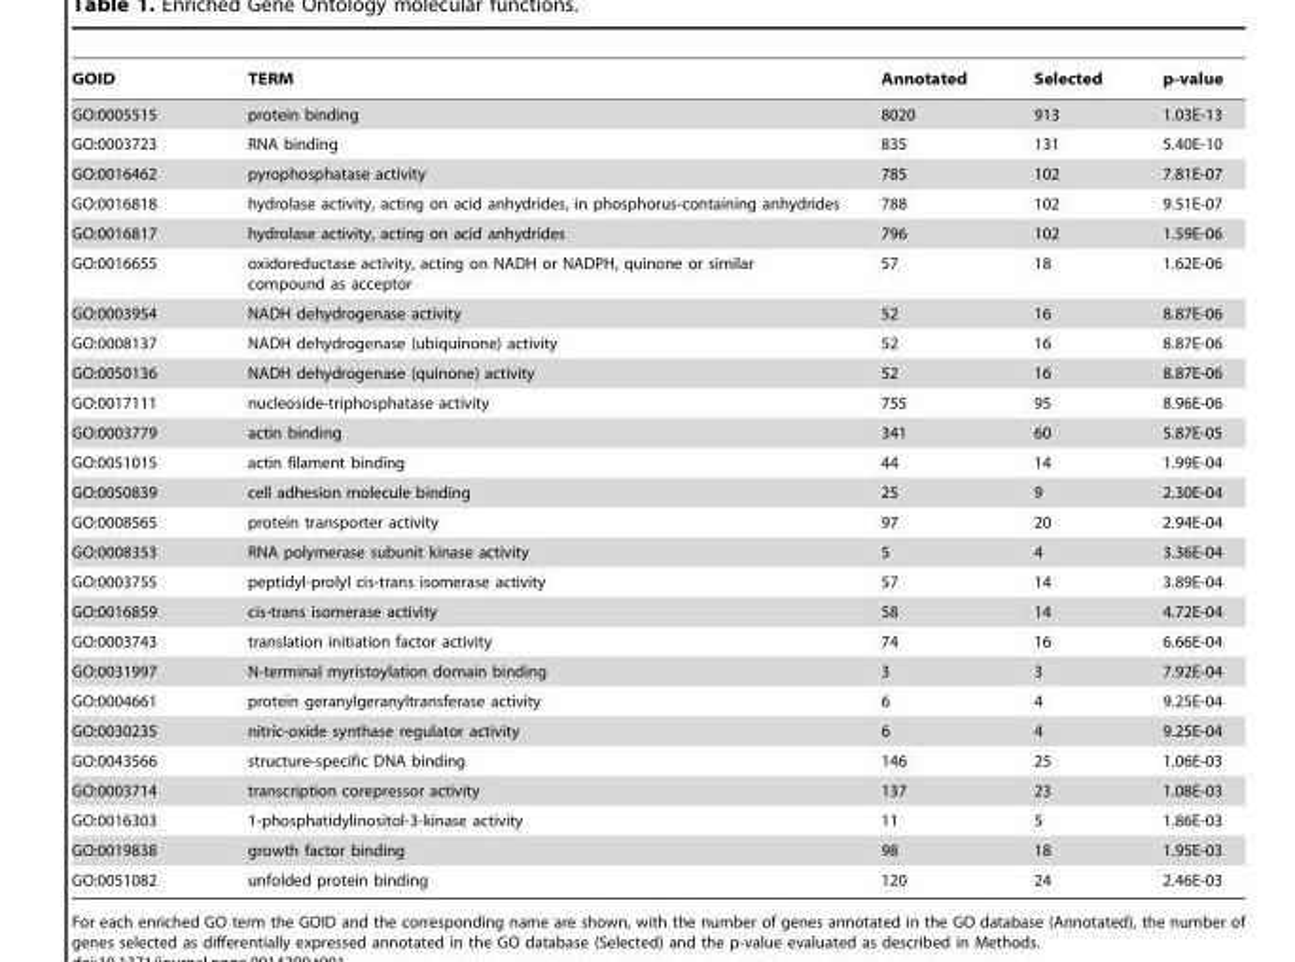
<table><thead><tr><td>GOID</td><td>TERM</td><td>Annotated</td><td>Selected</td><td>p-value</td></tr></thead><tbody><tr><td>GO:0005515</td><td>protein binding</td><td>8020</td><td>913</td><td>1.03E-13</td></tr><tr><td>GO:0003723</td><td>RNA binding</td><td>835</td><td>131</td><td>5.40E-10</td></tr><tr><td>GO:0016462</td><td>pyrophosphatase activity</td><td>785</td><td>102</td><td>7.81E-07</td></tr><tr><td>GO:0016818</td><td>hydrolase activity, acting on acid anhydrides, in phosphorus-containing anhydrides</td><td>788</td><td>102</td><td>9.51E-07</td></tr><tr><td>GO:0016817</td><td>hydrolase activity, acting on acid anhydrides</td><td>796</td><td>102</td><td>1.59E-06</td></tr><tr><td>GO:0016655</td><td>oxidoreductase activity, acting on NADH or NADPH, quinone or similar compound as acceptor</td><td>57</td><td>18</td><td>1.62E-06</td></tr><tr><td>GO:0003954</td><td>NADH dehydrogenase activity</td><td>52</td><td>16</td><td>8.87E-06</td></tr><tr><td>GO:0008137</td><td>NADH dehydrogenase (ubiquinone) activity</td><td>52</td><td>16</td><td>8.87E-06</td></tr><tr><td>GO:0050136</td><td>NADH dehydrogenase (quinone) activity</td><td>52</td><td>16</td><td>8.87E-06</td></tr><tr><td>GO:0017111</td><td>nucleoside-triphosphatase activity</td><td>755</td><td>95</td><td>8.96E-06</td></tr><tr><td>GO:0003779</td><td>actin binding</td><td>341</td><td>60</td><td>5.87E-05</td></tr><tr><td>GO:0051015</td><td>actin filament binding</td><td>44</td><td>14</td><td>1.99E-04</td></tr><tr><td>GO:0050839</td><td>cell adhesion molecule binding</td><td>25</td><td>9</td><td>2.30E-04</td></tr><tr><td>GO:0008565</td><td>protein transporter activity</td><td>97</td><td>20</td><td>2.94E-04</td></tr><tr><td>GO:0008353</td><td>RNA polymerase subunit kinase activity</td><td>5</td><td>4</td><td>3.36E-04</td></tr><tr><td>GO:0003755</td><td>peptidyl-prolyl cis-trans isomerase activity</td><td>57</td><td>14</td><td>3.89E-04</td></tr><tr><td>GO:0016859</td><td>cis-trans isomerase activity</td><td>58</td><td>14</td><td>4.72E-04</td></tr><tr><td>GO:0003743</td><td>translation initiation factor activity</td><td>74</td><td>16</td><td>6.66E-04</td></tr><tr><td>GO:0031997</td><td>N-terminal myristoylation domain binding</td><td>3</td><td>3</td><td>7.92E-04</td></tr><tr><td>GO:0004661</td><td>protein geranylgeranyltransferase activity</td><td>6</td><td>4</td><td>9.25E-04</td></tr><tr><td>GO:0030235</td><td>nitric-oxide synthase regulator activity</td><td>6</td><td>4</td><td>9.25E-04</td></tr><tr><td>GO:0043566</td><td>structure-specific DNA binding</td><td>146</td><td>25</td><td>1.06E-03</td></tr><tr><td>GO:0003714</td><td>transcription corepressor activity</td><td>137</td><td>23</td><td>1.08E-03</td></tr><tr><td>GO:0016303</td><td>1-phosphatidylinositol-3-kinase activity</td><td>11</td><td>5</td><td>1.86E-03</td></tr><tr><td>GO:0019838</td><td>growth factor binding</td><td>98</td><td>18</td><td>1.95E-03</td></tr><tr><td>GO:0051082</td><td>unfolded protein binding</td><td>120</td><td>24</td><td>2.46E-03</td></tr></tbody></table>